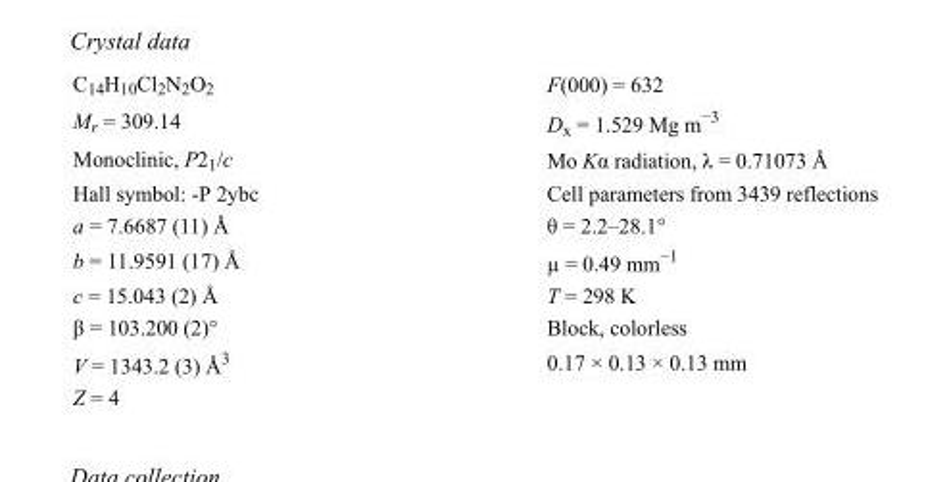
<table><tbody><tr><td>C<sub>14</sub>H<sub>10</sub>Cl<sub>2</sub>N<sub>2</sub>O<sub>2</sub></td><td>F(000) = 632</td></tr><tr><td>M<sub>r</sub> = 309.14</td><td>D<sub>x</sub> = 1.529 Mg m<sup>−3</sup></td></tr><tr><td>Monoclinic, P2<sub>1</sub>/c</td><td>Mo Kα radiation, λ = 0.71073 Å</td></tr><tr><td>Hall symbol: -P 2ybc</td><td>Cell parameters from 3439 reflections</td></tr><tr><td>a = 7.6687 (11) Å</td><td>θ = 2.2–28.1°</td></tr><tr><td>b = 11.9591 (17) Å</td><td>µ = 0.49 mm<sup>−1</sup></td></tr><tr><td>c = 15.043 (2) Å</td><td>T = 298 K</td></tr><tr><td>β = 103.200 (2)°</td><td>Block, colorless</td></tr><tr><td>V = 1343.2 (3) Å<sup>3</sup></td><td>0.17 × 0.13 × 0.13 mm</td></tr><tr><td>Z = 4</td><td></td></tr></tbody></table>